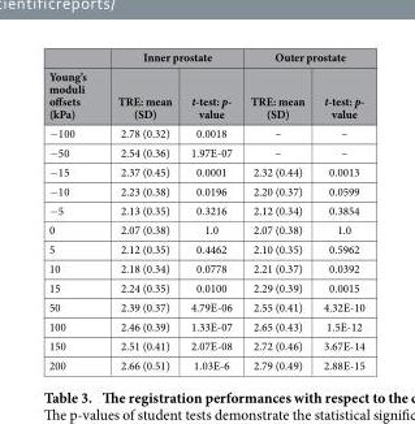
<table><thead><tr><td rowspan="2">Young’s moduli offsets (kPa)</td><td colspan="2">Inner prostate</td><td colspan="2">Outer prostate</td></tr><tr><td>TRE: mean (SD)</td><td>t-test: p- value</td><td>TRE: mean (SD)</td><td>t-test: p- value</td></tr></thead><tbody><tr><td>− 100</td><td>2.78 (0.32)</td><td>0.0018</td><td>–</td><td>–</td></tr><tr><td>− 50</td><td>2.54 (0.36)</td><td>1.97E-07</td><td>–</td><td>–</td></tr><tr><td>− 15</td><td>2.37 (0.45)</td><td>0.0001</td><td>2.32 (0.44)</td><td>0.0013</td></tr><tr><td>− 10</td><td>2.23 (0.38)</td><td>0.0196</td><td>2.20 (0.37)</td><td>0.0599</td></tr><tr><td>− 5</td><td>2.13 (0.35)</td><td>0.3216</td><td>2.12 (0.34)</td><td>0.3854</td></tr><tr><td>0</td><td>2.07 (0.38)</td><td>1.0</td><td>2.07 (0.38)</td><td>1.0</td></tr><tr><td>5</td><td>2.12 (0.35)</td><td>0.4462</td><td>2.10 (0.35)</td><td>0.5962</td></tr><tr><td>10</td><td>2.18 (0.34)</td><td>0.0778</td><td>2.21 (0.37)</td><td>0.0392</td></tr><tr><td>15</td><td>2.24 (0.35)</td><td>0.0100</td><td>2.29 (0.39)</td><td>0.0015</td></tr><tr><td>50</td><td>2.39 (0.37)</td><td>4.79E-06</td><td>2.55 (0.41)</td><td>4.32E-10</td></tr><tr><td>100</td><td>2.46 (0.39)</td><td>1.33E-07</td><td>2.65 (0.43)</td><td>1.5E-12</td></tr><tr><td>150</td><td>2.51 (0.41)</td><td>2.07E-08</td><td>2.72 (0.46)</td><td>3.67E-14</td></tr><tr><td>200</td><td>2.66 (0.51)</td><td>1.03E-6</td><td>2.79 (0.49)</td><td>2.88E-15</td></tr></tbody></table>